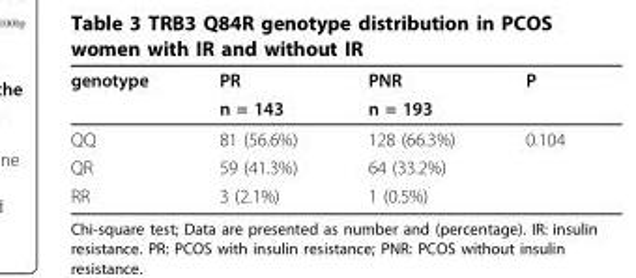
<table><thead><tr><td rowspan="2">genotype</td><td rowspan="2">PR n = 143</td><td rowspan="2">PNR n = 193</td><td rowspan="2">P</td></tr><tr></tr></thead><tbody><tr><td>QQ</td><td>81 (56.6%)</td><td>128 (66.3%)</td><td>0.104</td></tr><tr><td>QR</td><td>59 (41.3%)</td><td>64 (33.2%)</td><td></td></tr><tr><td>RR</td><td>3 (2.1%)</td><td>1 (0.5%)</td><td></td></tr></tbody></table>